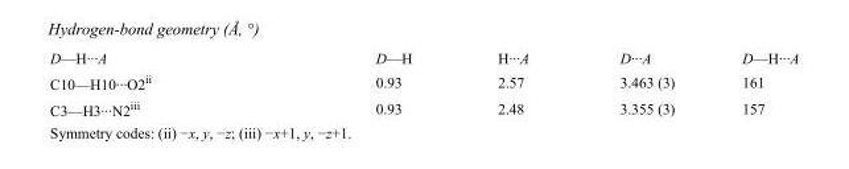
<table><tbody><tr><td>D—H···A</td><td>D—H</td><td>H···A</td><td>D···A</td><td>D—H···A</td></tr><tr><td>C10—H10···O2<sup>ii</sup></td><td>0.93</td><td>2.57</td><td>3.463 (3)</td><td>161</td></tr><tr><td>C3—H3···N2<sup>iii</sup></td><td>0.93</td><td>2.48</td><td>3.355 (3)</td><td>157</td></tr></tbody></table>